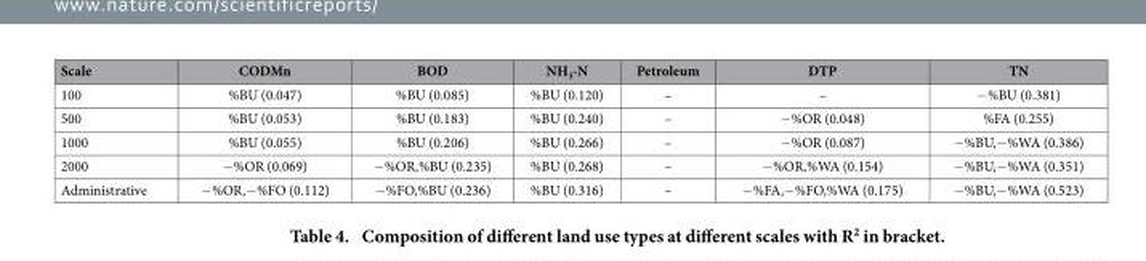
<table><thead><tr><td>Scale</td><td>CODMn</td><td>BOD</td><td>NH<sub>3</sub>-N</td><td>Petroleum</td><td>DTP</td><td>TN</td></tr></thead><tbody><tr><td>100</td><td>%BU (0.047)</td><td>%BU (0.085)</td><td>%BU (0.120)</td><td>–</td><td>–</td><td>−%BU (0.381)</td></tr><tr><td>500</td><td>%BU (0.053)</td><td>%BU (0.183)</td><td>%BU (0.240)</td><td>–</td><td>−%OR (0.048)</td><td>%FA (0.255)</td></tr><tr><td>1000</td><td>%BU (0.055)</td><td>%BU (0.206)</td><td>%BU (0.266)</td><td>–</td><td>−%OR (0.087)</td><td>−%BU,−%WA (0.386)</td></tr><tr><td>2000</td><td>−%OR (0.069)</td><td>−%OR,%BU (0.235)</td><td>%BU (0.268)</td><td>–</td><td>−%OR,%WA (0.154)</td><td>−%BU,−%WA (0.351)</td></tr><tr><td>Administrative</td><td>−%OR,−%FO (0.112)</td><td>−%FO,%BU (0.236)</td><td>%BU (0.316)</td><td>–</td><td>−%FA,−%FO,%WA (0.175)</td><td>−%BU,−%WA (0.523)</td></tr></tbody></table>